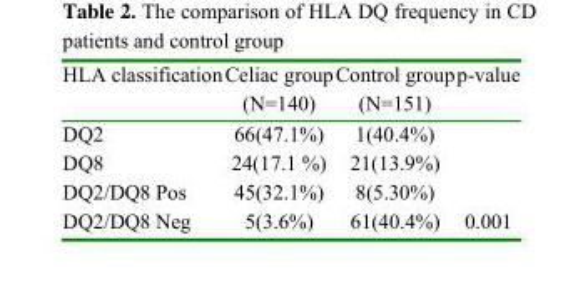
<table><thead><tr><td>HLA classification</td><td>Celiac group (N=140)</td><td>Control group (N=151)</td><td>p-value</td></tr></thead><tbody><tr><td>DQ2</td><td>66(47.1%)</td><td>1(40.4%)</td><td rowspan="4">0.001</td></tr><tr><td>DQ8</td><td>24(17.1 %)</td><td>21(13.9%)</td></tr><tr><td>DQ2/DQ8 Pos</td><td>45(32.1%)</td><td>8(5.30%)</td></tr><tr><td>DQ2/DQ8 Neg</td><td>5(3.6%)</td><td>61(40.4%)</td></tr></tbody></table>